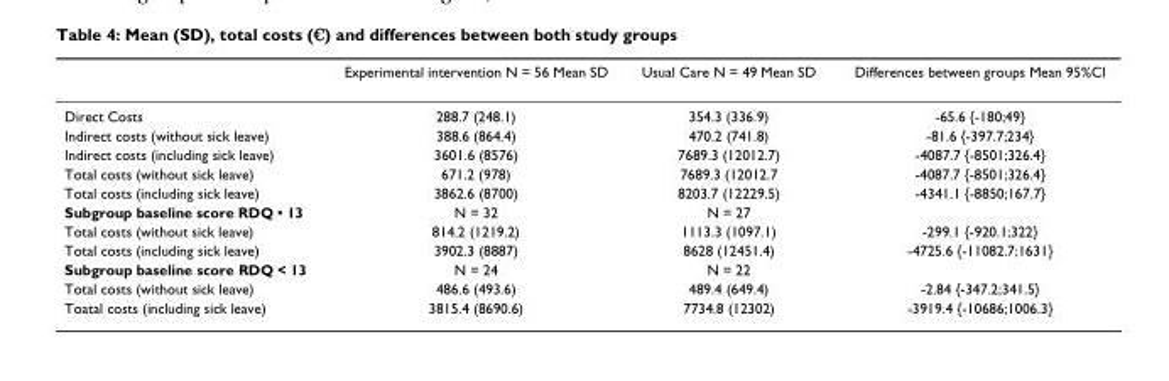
<table><thead><tr><td></td><td>Experimental intervention N = 56 Mean SD</td><td>Usual Care N = 49 Mean SD</td><td>Differences between groups Mean 95%CI</td></tr></thead><tbody><tr><td>Direct Costs</td><td>288.7 (248.1)</td><td>354.3 (336.9)</td><td>-65.6 {-180;49}</td></tr><tr><td>Indirect costs (without sick leave)</td><td>388.6 (864.4)</td><td>470.2 (741.8)</td><td>-81.6 {-397.7;234}</td></tr><tr><td>Indirect costs (including sick leave)</td><td>3601.6 (8576)</td><td>7689.3 (12012.7)</td><td>-4087.7 {-8501;326.4}</td></tr><tr><td>Total costs (without sick leave)</td><td>671.2 (978)</td><td>7689.3 (12012.7</td><td>-4087.7 {-8501;326.4}</td></tr><tr><td>Total costs (including sick leave)</td><td>3862.6 (8700)</td><td>8203.7 (12229.5)</td><td>-4341.1 {-8850;167.7}</td></tr><tr><td>Subgroup baseline score RDQ • 13</td><td>N = 32</td><td>N = 27</td><td></td></tr><tr><td>Total costs (without sick leave)</td><td>814.2 (1219.2)</td><td>1113.3 (1097.1)</td><td>-299.1 {-920.1;322}</td></tr><tr><td>Total costs (including sick leave)</td><td>3902.3 (8887)</td><td>8628 (12451.4)</td><td>-4725.6 {-11082.7;1631}</td></tr><tr><td>Subgroup baseline score RDQ &lt; 13</td><td>N = 24</td><td>N = 22</td><td></td></tr><tr><td>Total costs (without sick leave)</td><td>486.6 (493.6)</td><td>489.4 (649.4)</td><td>-2.84 {-347.2;341.5}</td></tr><tr><td>Toatal costs (including sick leave)</td><td>3815.4 (8690.6)</td><td>7734.8 (12302)</td><td>-3919.4 {-10686;1006.3}</td></tr></tbody></table>